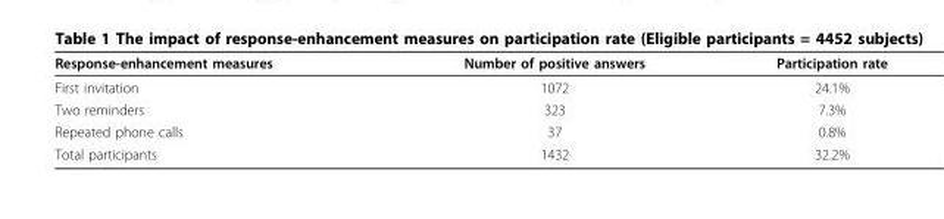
<table><thead><tr><td>Response-enhancement measures</td><td>Number of positive answers</td><td>Participation rate</td></tr></thead><tbody><tr><td>First invitation</td><td>1072</td><td>24.1%</td></tr><tr><td>Two reminders</td><td>323</td><td>7.3%</td></tr><tr><td>Repeated phone calls</td><td>37</td><td>0.8%</td></tr><tr><td>Total participants</td><td>1432</td><td>32.2%</td></tr></tbody></table>